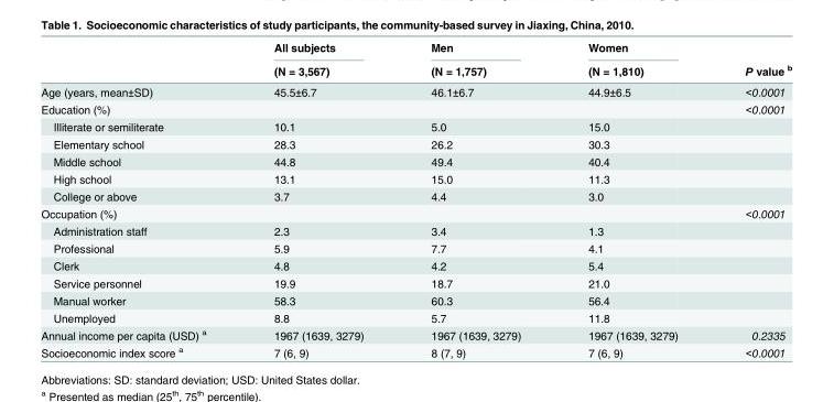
<table><thead><tr><td rowspan="2"></td><td rowspan="2">All subjects (N = 3,567)</td><td rowspan="2">Men (N = 1,757)</td><td rowspan="2">Women (N = 1,810)</td><td rowspan="2">P value <sup>b</sup></td></tr><tr></tr></thead><tbody><tr><td>Age (years, mean±SD)</td><td>45.5±6.7</td><td>46.1±6.7</td><td>44.9±6.5</td><td>&lt;0.0001</td></tr><tr><td>Education (%)</td><td></td><td></td><td></td><td>&lt;0.0001</td></tr><tr><td>Illiterate or semiliterate</td><td>10.1</td><td>5.0</td><td>15.0</td><td></td></tr><tr><td>Elementary school</td><td>28.3</td><td>26.2</td><td>30.3</td><td></td></tr><tr><td>Middle school</td><td>44.8</td><td>49.4</td><td>40.4</td><td></td></tr><tr><td>High school</td><td>13.1</td><td>15.0</td><td>11.3</td><td></td></tr><tr><td>College or above</td><td>3.7</td><td>4.4</td><td>3.0</td><td></td></tr><tr><td>Occupation (%)</td><td></td><td></td><td></td><td>&lt;0.0001</td></tr><tr><td>Administration staff</td><td>2.3</td><td>3.4</td><td>1.3</td><td></td></tr><tr><td>Professional</td><td>5.9</td><td>7.7</td><td>4.1</td><td></td></tr><tr><td>Clerk</td><td>4.8</td><td>4.2</td><td>5.4</td><td></td></tr><tr><td>Service personnel</td><td>19.9</td><td>18.7</td><td>21.0</td><td></td></tr><tr><td>Manual worker</td><td>58.3</td><td>60.3</td><td>56.4</td><td></td></tr><tr><td>Unemployed</td><td>8.8</td><td>5.7</td><td>11.8</td><td></td></tr><tr><td>Annual income per capita (USD) <sup>a</sup></td><td>1967 (1639, 3279)</td><td>1967 (1639, 3279)</td><td>1967 (1639, 3279)</td><td>0.2335</td></tr><tr><td>Socioeconomic index score <sup>a</sup></td><td>7 (6, 9)</td><td>8 (7, 9)</td><td>7 (6, 9)</td><td>&lt;0.0001</td></tr></tbody></table>